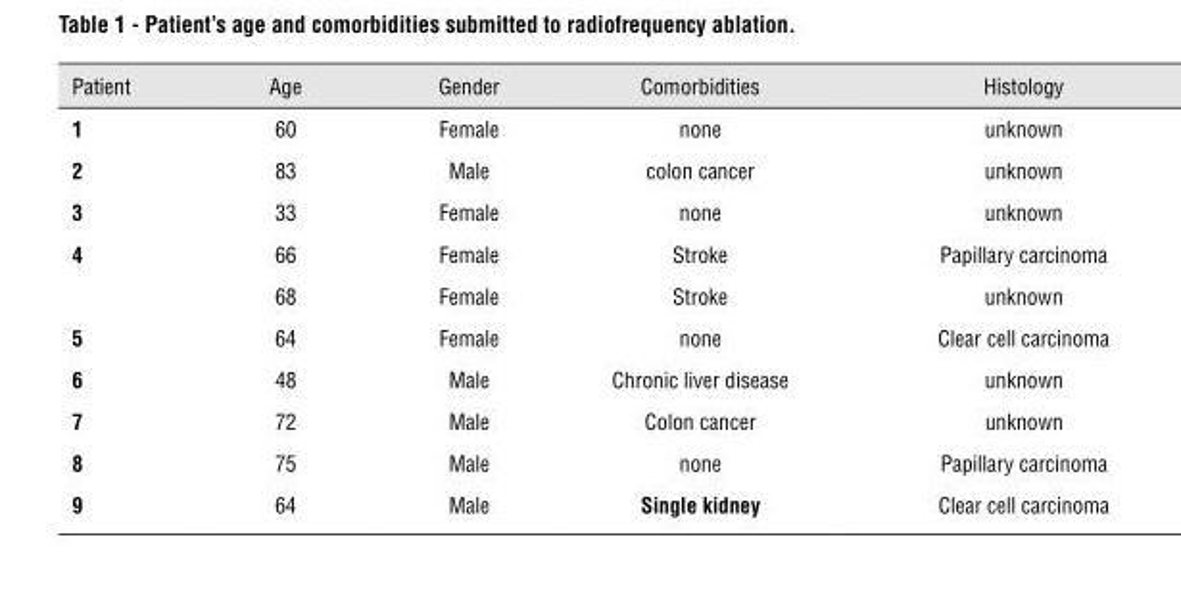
<table><thead><tr><td>Patient</td><td>Age</td><td>Gender</td><td>Comorbidities</td><td>Histology</td></tr></thead><tbody><tr><td>1</td><td>60</td><td>Female</td><td>none</td><td>unknown</td></tr><tr><td>2</td><td>83</td><td>Male</td><td>colon cancer</td><td>unknown</td></tr><tr><td>3</td><td>33</td><td>Female</td><td>none</td><td>unknown</td></tr><tr><td rowspan="2">4</td><td>66</td><td>Female</td><td>Stroke</td><td>Papillary carcinoma</td></tr><tr><td>68</td><td>Female</td><td>Stroke</td><td>unknown</td></tr><tr><td>5</td><td>64</td><td>Female</td><td>none</td><td>Clear cell carcinoma</td></tr><tr><td>6</td><td>48</td><td>Male</td><td>Chronic liver disease</td><td>unknown</td></tr><tr><td>7</td><td>72</td><td>Male</td><td>Colon cancer</td><td>unknown</td></tr><tr><td>8</td><td>75</td><td>Male</td><td>none</td><td>Papillary carcinoma</td></tr><tr><td>9</td><td>64</td><td>Male</td><td>single kidney</td><td>Clear cell carcinoma</td></tr></tbody></table>